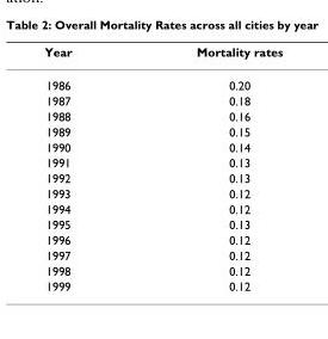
<table><thead><tr><td>Year</td><td>Mortality rates</td></tr></thead><tbody><tr><td>1986</td><td>0.20</td></tr><tr><td>1987</td><td>0.18</td></tr><tr><td>1988</td><td>0.16</td></tr><tr><td>1989</td><td>0.15</td></tr><tr><td>1990</td><td>0.14</td></tr><tr><td>1991</td><td>0.13</td></tr><tr><td>1992</td><td>0.13</td></tr><tr><td>1993</td><td>0.12</td></tr><tr><td>1994</td><td>0.12</td></tr><tr><td>1995</td><td>0.13</td></tr><tr><td>1996</td><td>0.12</td></tr><tr><td>1997</td><td>0.12</td></tr><tr><td>1998</td><td>0.12</td></tr><tr><td>1999</td><td>0.12</td></tr></tbody></table>